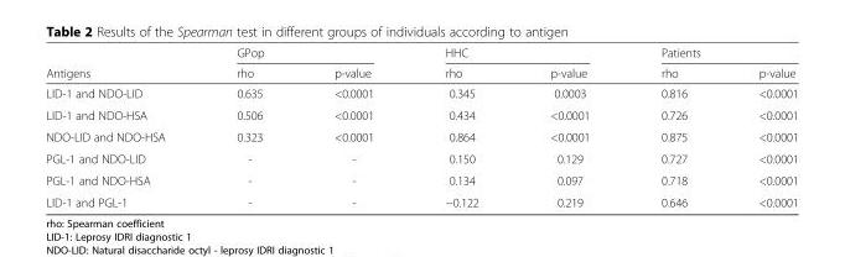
<table><thead><tr><td rowspan="2">Antigens</td><td colspan="2">GPop</td><td colspan="2">HHC</td><td colspan="2">Patients</td></tr><tr><td>rho</td><td>p-value</td><td>rho</td><td>p-value</td><td>rho</td><td>p-value</td></tr></thead><tbody><tr><td>LID-1 and NDO-LID</td><td>0.635</td><td>&lt;0.0001</td><td>0.345</td><td>0.0003</td><td>0.816</td><td>&lt;0.0001</td></tr><tr><td>LID-1 and NDO-HSA</td><td>0.506</td><td>&lt;0.0001</td><td>0.434</td><td>&lt;0.0001</td><td>0.726</td><td>&lt;0.0001</td></tr><tr><td>NDO-LID and NDO-HSA</td><td>0.323</td><td>&lt;0.0001</td><td>0.864</td><td>&lt;0.0001</td><td>0.875</td><td>&lt;0.0001</td></tr><tr><td>PGL-1 and NDO-LID</td><td>-</td><td>-</td><td>0.150</td><td>0.129</td><td>0.727</td><td>&lt;0.0001</td></tr><tr><td>PGL-1 and NDO-HSA</td><td>-</td><td>-</td><td>0.134</td><td>0.097</td><td>0.718</td><td>&lt;0.0001</td></tr><tr><td>LID-1 and PGL-1</td><td>-</td><td>-</td><td>−0.122</td><td>0.219</td><td>0.646</td><td>&lt;0.0001</td></tr></tbody></table>